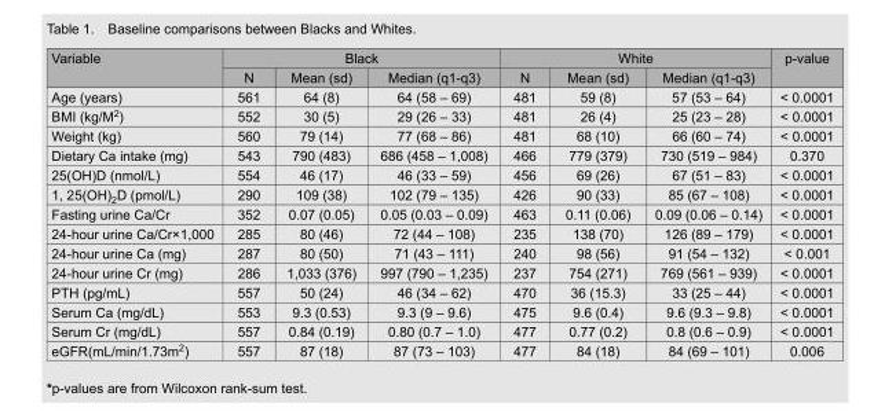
<table><thead><tr><td rowspan="2">Variable</td><td colspan="3">Black</td><td colspan="3">White</td><td rowspan="2">p-value</td></tr><tr><td>N</td><td>Mean (sd)</td><td>Median (q1-q3)</td><td>N</td><td>Mean (sd)</td><td>Median (q1-q3)</td></tr></thead><tbody><tr><td>Age (years)</td><td>561</td><td>64 (8)</td><td>64 (58 – 69)</td><td>481</td><td>59 (8)</td><td>57 (53 – 64)</td><td>&lt; 0.0001</td></tr><tr><td>BMI (kg/M<sup>2</sup>)</td><td>552</td><td>30 (5)</td><td>29 (26 – 33)</td><td>481</td><td>26 (4)</td><td>25 (23 – 28)</td><td>&lt; 0.0001</td></tr><tr><td>Weight (kg)</td><td>560</td><td>79 (14)</td><td>77 (68 – 86)</td><td>481</td><td>68 (10)</td><td>66 (60 – 74)</td><td>&lt; 0.0001</td></tr><tr><td>Dietary Ca intake (mg)</td><td>543</td><td>790 (483)</td><td>686 (458 – 1,008)</td><td>466</td><td>779 (379)</td><td>730 (519 – 984)</td><td>0.370</td></tr><tr><td>25(OH)D (nmol/L)</td><td>554</td><td>46 (17)</td><td>46 (33 – 59)</td><td>456</td><td>69 (26)</td><td>67 (51 – 83)</td><td>&lt; 0.0001</td></tr><tr><td>1, 25(OH)<sub>2</sub>D (pmol/L)</td><td>290</td><td>109 (38)</td><td>102 (79 – 135)</td><td>426</td><td>90 (33)</td><td>85 (67 – 108)</td><td>&lt; 0.0001</td></tr><tr><td>Fasting urine Ca/Cr</td><td>352</td><td>0.07 (0.05)</td><td>0.05 (0.03 – 0.09)</td><td>463</td><td>0.11 (0.06)</td><td>0.09 (0.06 – 0.14)</td><td>&lt; 0.0001</td></tr><tr><td>24-hour urine Ca/Cr×1,000</td><td>285</td><td>80 (46)</td><td>72 (44 – 108)</td><td>235</td><td>138 (70)</td><td>126 (89 – 179)</td><td>&lt; 0.0001</td></tr><tr><td>24-hour urine Ca (mg)</td><td>287</td><td>80 (50)</td><td>71 (43 – 111)</td><td>240</td><td>98 (56)</td><td>91 (54 – 132)</td><td>&lt; 0.001</td></tr><tr><td>24-hour urine Cr (mg)</td><td>286</td><td>1,033 (376)</td><td>997 (790 – 1,235)</td><td>237</td><td>754 (271)</td><td>769 (561 – 939)</td><td>&lt; 0.0001</td></tr><tr><td>PTH (pg/mL)</td><td>557</td><td>50 (24)</td><td>46 (34 – 62)</td><td>470</td><td>36 (15.3)</td><td>33 (25 – 44)</td><td>&lt; 0.0001</td></tr><tr><td>Serum Ca (mg/dL)</td><td>553</td><td>9.3 (0.53)</td><td>9.3 (9 – 9.6)</td><td>475</td><td>9.6 (0.4)</td><td>9.6 (9.3 – 9.8)</td><td>&lt; 0.0001</td></tr><tr><td>Serum Cr (mg/dL)</td><td>557</td><td>0.84 (0.19)</td><td>0.80 (0.7 – 1.0)</td><td>477</td><td>0.77 (0.2)</td><td>0.8 (0.6 – 0.9)</td><td>&lt; 0.0001</td></tr><tr><td>eGFR(mL/min/1.73m<sup>2</sup>)</td><td>557</td><td>87 (18)</td><td>87 (73 – 103)</td><td>477</td><td>84 (18)</td><td>84 (69 – 101)</td><td>0.006</td></tr></tbody></table>